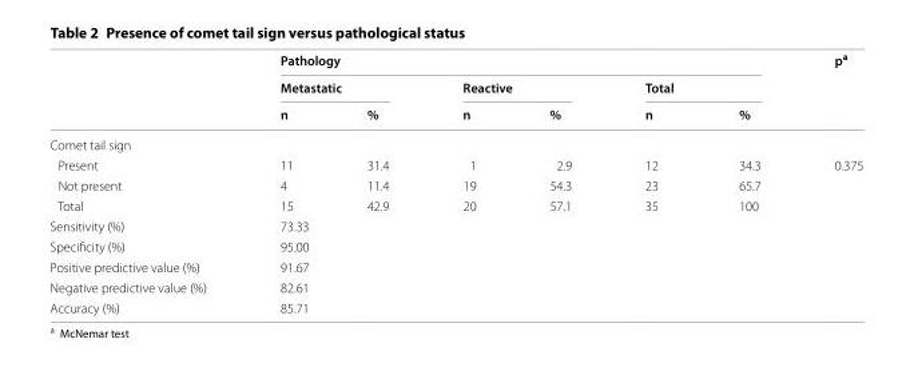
<table><thead><tr><td rowspan="3"></td><td colspan="6">Pathology</td><td rowspan="3">p<sup>a</sup></td></tr><tr><td colspan="2">Metastatic</td><td colspan="2">Reactive</td><td colspan="2">Total</td></tr><tr><td>n</td><td>%</td><td>n</td><td>%</td><td>n</td><td>%</td></tr></thead><tbody><tr><td colspan="8">Comet tail sign</td></tr><tr><td>Present</td><td>11</td><td>31.4</td><td>1</td><td>2.9</td><td>12</td><td>34.3</td><td>0.375</td></tr><tr><td>Not present</td><td>4</td><td>11.4</td><td>19</td><td>54.3</td><td>23</td><td>65.7</td><td></td></tr><tr><td>Total</td><td>15</td><td>42.9</td><td>20</td><td>57.1</td><td>35</td><td>100</td><td></td></tr><tr><td>Sensitivity (%)</td><td colspan="4">73.33</td><td></td><td></td><td></td></tr><tr><td>Specificity (%)</td><td colspan="4">95.00</td><td></td><td></td><td></td></tr><tr><td>Positive predictive value (%)</td><td colspan="4">91.67</td><td></td><td></td><td></td></tr><tr><td>Negative predictive value (%)</td><td colspan="4">82.61</td><td></td><td></td><td></td></tr><tr><td>Accuracy (%)</td><td colspan="4">85.71</td><td></td><td></td><td></td></tr></tbody></table>